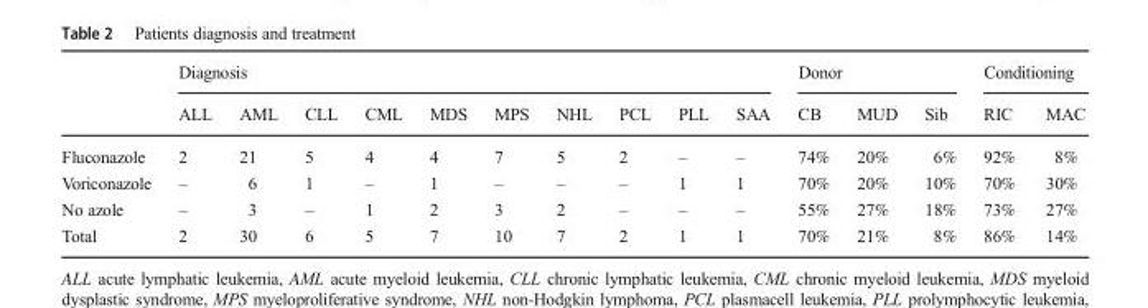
<table><thead><tr><td rowspan="2"></td><td colspan="10">Diagnosis</td><td colspan="3">Donor</td><td colspan="2">Conditioning</td></tr><tr><td>ALL</td><td>AML</td><td>CLL</td><td>CML</td><td>MDS</td><td>MPS</td><td>NHL</td><td>PCL</td><td>PLL</td><td>SAA</td><td>CB</td><td>MUD</td><td>Sib</td><td>RIC</td><td>MAC</td></tr></thead><tbody><tr><td>Fluconazole</td><td>2</td><td>21</td><td>5</td><td>4</td><td>4</td><td>7</td><td>5</td><td>2</td><td>–</td><td>–</td><td>74%</td><td>20%</td><td>6%</td><td>92%</td><td>8%</td></tr><tr><td>Voriconazole</td><td>–</td><td>6</td><td>1</td><td>–</td><td>1</td><td>–</td><td>–</td><td>–</td><td>1</td><td>1</td><td>70%</td><td>20%</td><td>10%</td><td>70%</td><td>30%</td></tr><tr><td>No azole</td><td>–</td><td>3</td><td>–</td><td>1</td><td>2</td><td>3</td><td>2</td><td>–</td><td>–</td><td>–</td><td>55%</td><td>27%</td><td>18%</td><td>73%</td><td>27%</td></tr><tr><td>Total</td><td>2</td><td>30</td><td>6</td><td>5</td><td>7</td><td>10</td><td>7</td><td>2</td><td>1</td><td>1</td><td>70%</td><td>21%</td><td>8%</td><td>86%</td><td>14%</td></tr></tbody></table>